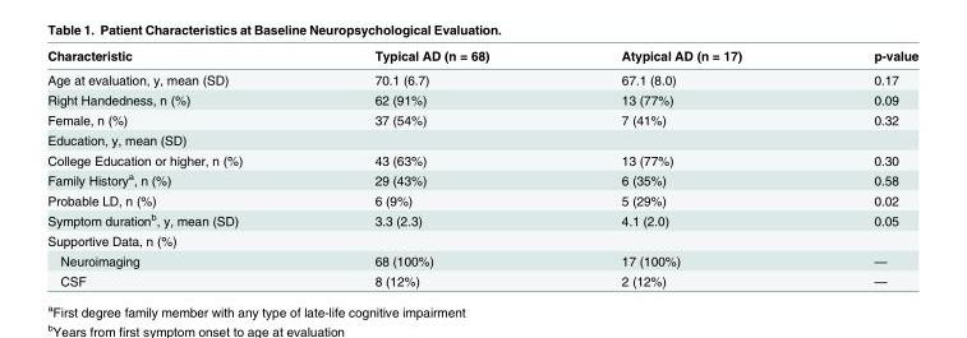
<table><thead><tr><td>Characteristic</td><td>Typical AD (n = 68)</td><td>Atypical AD (n = 17)</td><td>p-value</td></tr></thead><tbody><tr><td>Age at evaluation, y, mean (SD)</td><td>70.1 (6.7)</td><td>67.1 (8.0)</td><td>0.17</td></tr><tr><td>Right Handedness, n (%)</td><td>62 (91%)</td><td>13 (77%)</td><td>0.09</td></tr><tr><td>Female, n (%)</td><td>37 (54%)</td><td>7 (41%)</td><td>0.32</td></tr><tr><td colspan="4">Education, y, mean (SD)</td></tr><tr><td>College Education or higher, n (%)</td><td>43 (63%)</td><td>13 (77%)</td><td>0.30</td></tr><tr><td>Family History<sup>a</sup>, n (%)</td><td>29 (43%)</td><td>6 (35%)</td><td>0.58</td></tr><tr><td>Probable LD, n (%)</td><td>6 (9%)</td><td>5 (29%)</td><td>0.02</td></tr><tr><td>Symptom duration<sup>b</sup>, y, mean (SD)</td><td>3.3 (2.3)</td><td>4.1 (2.0)</td><td>0.05</td></tr><tr><td colspan="4">Supportive Data, n (%)</td></tr><tr><td>Neuroimaging</td><td>68 (100%)</td><td>17 (100%)</td><td>—</td></tr><tr><td>CSF</td><td>8 (12%)</td><td>2 (12%)</td><td>—</td></tr></tbody></table>